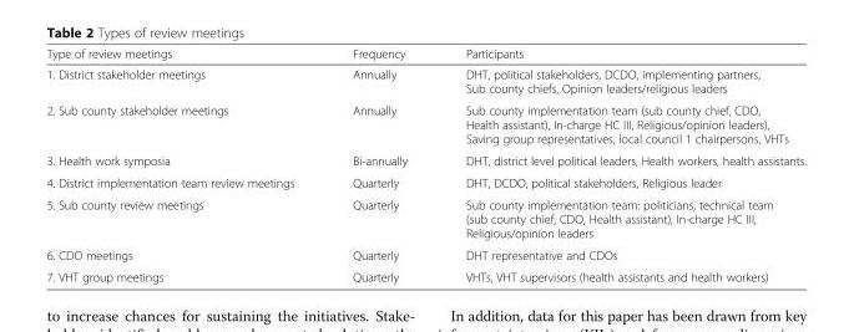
<table><thead><tr><td>Type of review meetings</td><td>Frequency</td><td>Participants</td></tr></thead><tbody><tr><td>1. District stakeholder meetings</td><td>Annually</td><td>DHT, political stakeholders, DCDO, implementing partners, Sub county chiefs, Opinion leaders/religious leaders</td></tr><tr><td>2. Sub county stakeholder meetings</td><td>Annually</td><td>Sub county implementation team (sub county chief, CDO, Health assistant), In-charge HC III, Religious/opinion leaders), Saving group representatives, local council 1 chairpersons, VHTs</td></tr><tr><td>3. Health work symposia</td><td>Bi-annually</td><td>DHT, district level political leaders, Health workers, health assistants.</td></tr><tr><td>4. District implementation team review meetings</td><td>Quarterly</td><td>DHT, DCDO, political stakeholders, Religious leader</td></tr><tr><td>5. Sub county review meetings</td><td>Quarterly</td><td>Sub county implementation team: politicians, technical team (sub county chief, CDO, Health assistant), In-charge HC III, Religious/opinion leaders</td></tr><tr><td>6. CDO meetings</td><td>Quarterly</td><td>DHT representative and CDOs</td></tr><tr><td>7. VHT group meetings</td><td>Quarterly</td><td>VHTs, VHT supervisors (health assistants and health workers)</td></tr></tbody></table>